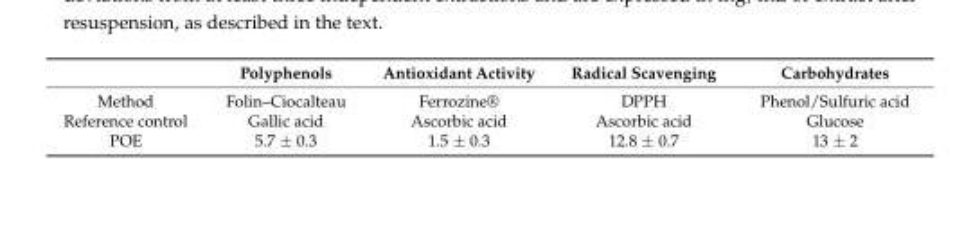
<table><thead><tr><td></td><td>Polyphenols</td><td>Antioxidant Activity</td><td>Radical Scavenging</td><td>Carbohydrates</td></tr></thead><tbody><tr><td>Method</td><td>Folin–Ciocalteau</td><td>Ferrozine®</td><td>DPPH</td><td>Phenol/Sulfuric acid</td></tr><tr><td>Reference control</td><td>Gallic acid</td><td>Ascorbic acid</td><td>Ascorbic acid</td><td>Glucose</td></tr><tr><td>POE</td><td>5.7 ± 0.3</td><td>1.5 ± 0.3</td><td>12.8 ± 0.7</td><td>13 ± 2</td></tr></tbody></table>